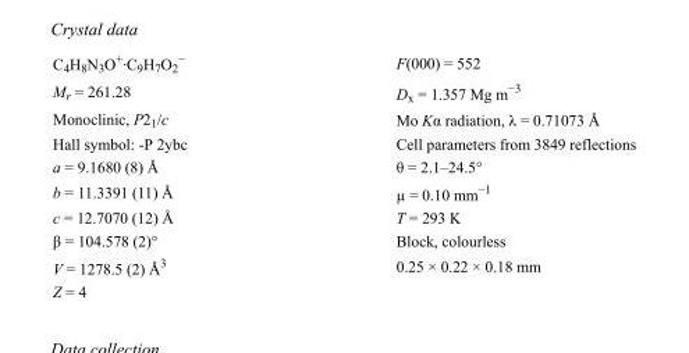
<table><tbody><tr><td>C<sub>4</sub>H<sub>8</sub>N<sub>3</sub>O<sup>+</sup>·C<sub>9</sub>H<sub>7</sub>O<sub>2</sub> <sup>−</sup></td><td>F(000) = 552</td></tr><tr><td>M<sub>r</sub> = 261.28</td><td>D<sub>x</sub> = 1.357 Mg m<sup>−3</sup></td></tr><tr><td>Monoclinic, P2<sub>1</sub>/c</td><td>Mo Kα radiation, λ = 0.71073 Å</td></tr><tr><td>Hall symbol: -P 2ybc</td><td>Cell parameters from 3849 reflections</td></tr><tr><td>a = 9.1680 (8) Å</td><td>θ = 2.1–24.5°</td></tr><tr><td>b = 11.3391 (11) Å</td><td>µ = 0.10 mm<sup>−1</sup></td></tr><tr><td>c = 12.7070 (12) Å</td><td>T = 293 K</td></tr><tr><td>β = 104.578 (2)°</td><td>Block, colourless</td></tr><tr><td>V = 1278.5 (2) Å<sup>3</sup></td><td>0.25 × 0.22 × 0.18 mm</td></tr><tr><td>Z = 4</td><td></td></tr></tbody></table>